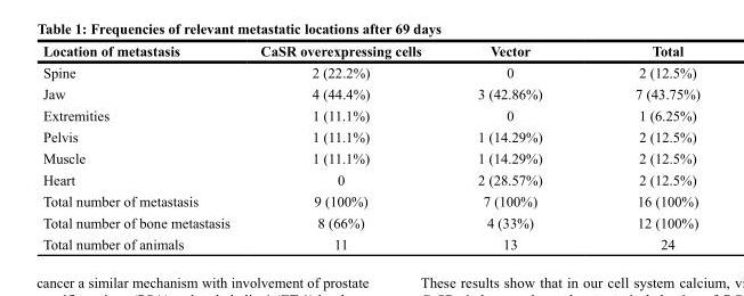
<table><thead><tr><td>Location of metastasis</td><td>CaSR overexpressing cells</td><td>Vector</td><td>Total</td></tr></thead><tbody><tr><td>Spine</td><td>2 (22.2%)</td><td>0</td><td>2 (12.5%)</td></tr><tr><td>Jaw</td><td>4 (44.4%)</td><td>3 (42.86%)</td><td>7 (43.75%)</td></tr><tr><td>Extremities</td><td>1 (11.1%)</td><td>0</td><td>1 (6.25%)</td></tr><tr><td>Pelvis</td><td>1 (11.1%)</td><td>1 (14.29%)</td><td>2 (12.5%)</td></tr><tr><td>Muscle</td><td>1 (11.1%)</td><td>1 (14.29%)</td><td>2 (12.5%)</td></tr><tr><td>Heart</td><td>0</td><td>2 (28.57%)</td><td>2 (12.5%)</td></tr><tr><td>Total number of metastasis</td><td>9 (100%)</td><td>7 (100%)</td><td>16 (100%)</td></tr><tr><td>Total number of bone metastasis</td><td>8 (66%)</td><td>4 (33%)</td><td>12 (100%)</td></tr><tr><td>Total number of animals</td><td>11</td><td>13</td><td>24</td></tr></tbody></table>